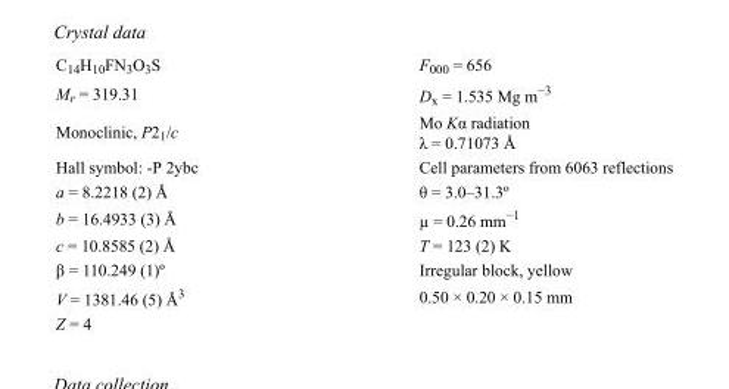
<table><tbody><tr><td>C<sub>14</sub>H<sub>10</sub>FN<sub>3</sub>O<sub>3</sub>S</td><td>F<sub>000</sub> = 656</td></tr><tr><td>M<sub>r</sub> = 319.31</td><td>D<sub>x</sub> = 1.535 Mg m<sup>−3</sup></td></tr><tr><td>Monoclinic, P2<sub>1</sub>/c</td><td>Mo Kα radiation λ = 0.71073 Å</td></tr><tr><td>Hall symbol: -P 2ybc</td><td>Cell parameters from 6063 reflections</td></tr><tr><td>a = 8.2218 (2) Å</td><td>θ = 3.0–31.3º</td></tr><tr><td>b = 16.4933 (3) Å</td><td>µ = 0.26 mm<sup>−1</sup></td></tr><tr><td>c = 10.8585 (2) Å</td><td>T = 123 (2) K</td></tr><tr><td>β = 110.249 (1)º</td><td>Irregular block, yellow</td></tr><tr><td>V = 1381.46 (5) Å<sup>3</sup></td><td>0.50 × 0.20 × 0.15 mm</td></tr><tr><td>Z = 4</td><td></td></tr></tbody></table>